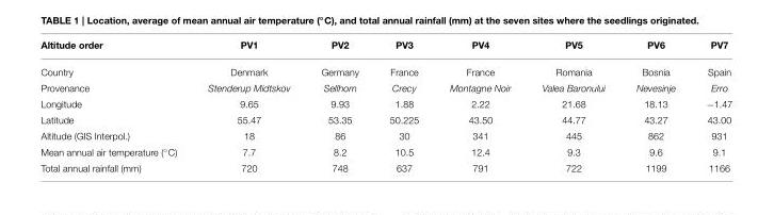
<table><thead><tr><td>Altitude order</td><td>PV1</td><td>PV2</td><td>PV3</td><td>PV4</td><td>PV5</td><td>PV6</td><td>PV7</td></tr></thead><tbody><tr><td>Country</td><td>Denmark</td><td>Germany</td><td>France</td><td>France</td><td>Romania</td><td>Bosnia</td><td>Spain</td></tr><tr><td>Provenance</td><td>Stenderup Midtskov</td><td>Sellhorn</td><td>Crecy</td><td>Montagne Noir</td><td>Valea Baronului</td><td>Nevesinje</td><td>Erro</td></tr><tr><td>Longitude</td><td>9.65</td><td>9.93</td><td>1.88</td><td>2.22</td><td>21.68</td><td>18.13</td><td>−1.47</td></tr><tr><td>Latitude</td><td>55.47</td><td>53.35</td><td>50.225</td><td>43.50</td><td>44.77</td><td>43.27</td><td>43.00</td></tr><tr><td>Altitude (GIS Interpol.)</td><td>18</td><td>86</td><td>30</td><td>341</td><td>445</td><td>862</td><td>931</td></tr><tr><td>Mean annual air temperature (◦C)</td><td>7.7</td><td>8.2</td><td>10.5</td><td>12.4</td><td>9.3</td><td>9.6</td><td>9.1</td></tr><tr><td>Total annual rainfall (mm)</td><td>720</td><td>748</td><td>637</td><td>791</td><td>722</td><td>1199</td><td>1166</td></tr></tbody></table>